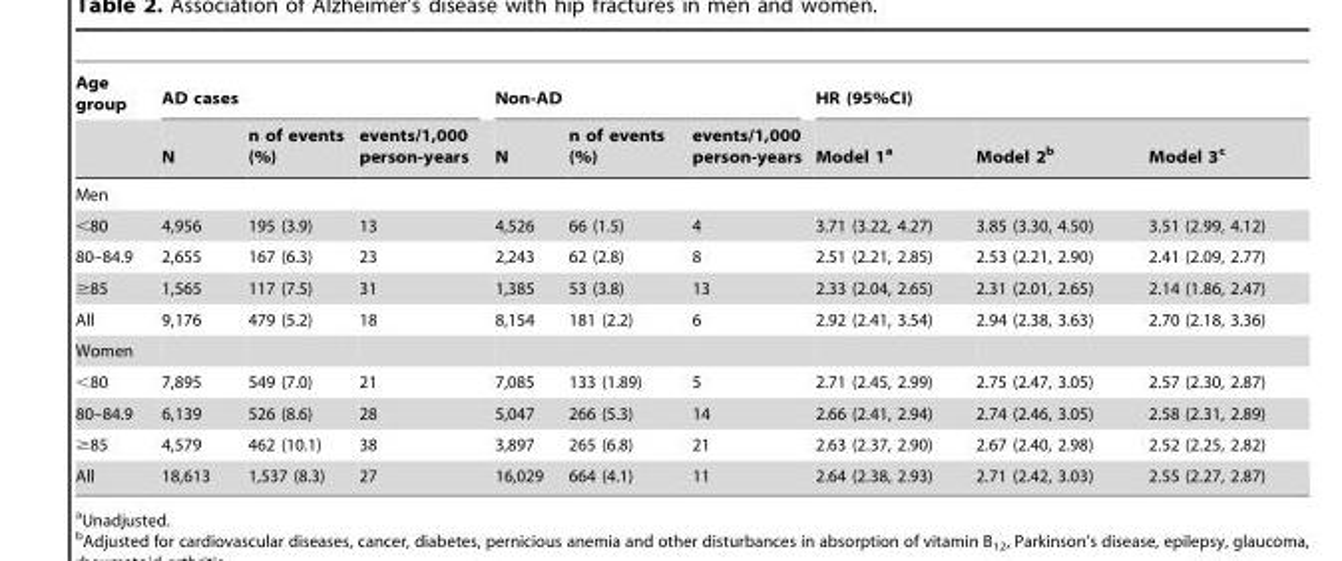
<table><thead><tr><td rowspan="2">Age group</td><td colspan="3">AD cases</td><td colspan="3">Non-AD</td><td colspan="3">HR (95%CI)</td></tr><tr><td>N</td><td>n of events (%)</td><td>events/1,000 person-years</td><td>N</td><td>n of events (%)</td><td>events/1,000 person-years</td><td>Model 1<sup>a</sup></td><td>Model 2<sup>b</sup></td><td>Model 3<sup>c</sup></td></tr></thead><tbody><tr><td colspan="10">Men</td></tr><tr><td>&lt;80</td><td>4,956</td><td>195 (3.9)</td><td>13</td><td>4,526</td><td>66 (1.5)</td><td>4</td><td>3.71 (3.22, 4.27)</td><td>3.85 (3.30, 4.50)</td><td>3.51 (2.99, 4.12)</td></tr><tr><td>80–84.9</td><td>2,655</td><td>167 (6.3)</td><td>23</td><td>2,243</td><td>62 (2.8)</td><td>8</td><td>2.51 (2.21, 2.85)</td><td>2.53 (2.21, 2.90)</td><td>2.41 (2.09, 2.77)</td></tr><tr><td>≥85</td><td>1,565</td><td>117 (7.5)</td><td>31</td><td>1,385</td><td>53 (3.8)</td><td>13</td><td>2.33 (2.04, 2.65)</td><td>2.31 (2.01, 2.65)</td><td>2.14 (1.86, 2.47)</td></tr><tr><td>All</td><td>9,176</td><td>479 (5.2)</td><td>18</td><td>8,154</td><td>181 (2.2)</td><td>6</td><td>2.92 (2.41, 3.54)</td><td>2.94 (2.38, 3.63)</td><td>2.70 (2.18, 3.36)</td></tr><tr><td colspan="10">Women</td></tr><tr><td>&lt;80</td><td>7,895</td><td>549 (7.0)</td><td>21</td><td>7,085</td><td>133 (1.89)</td><td>5</td><td>2.71 (2.45, 2.99)</td><td>2.75 (2.47, 3.05)</td><td>2.57 (2.30, 2.87)</td></tr><tr><td>80–84.9</td><td>6,139</td><td>526 (8.6)</td><td>28</td><td>5,047</td><td>266 (5.3)</td><td>14</td><td>2.66 (2.41, 2.94)</td><td>2.74 (2.46, 3.05)</td><td>2.58 (2.31, 2.89)</td></tr><tr><td>≥85</td><td>4,579</td><td>462 (10.1)</td><td>38</td><td>3,897</td><td>265 (6.8)</td><td>21</td><td>2.63 (2.37, 2.90)</td><td>2.67 (2.40, 2.98)</td><td>2.52 (2.25, 2.82)</td></tr><tr><td>All</td><td>18,613</td><td>1,537 (8.3)</td><td>27</td><td>16,029</td><td>664 (4.1)</td><td>11</td><td>2.64 (2.38, 2.93)</td><td>2.71 (2.42, 3.03)</td><td>2.55 (2.27, 2.87)</td></tr></tbody></table>